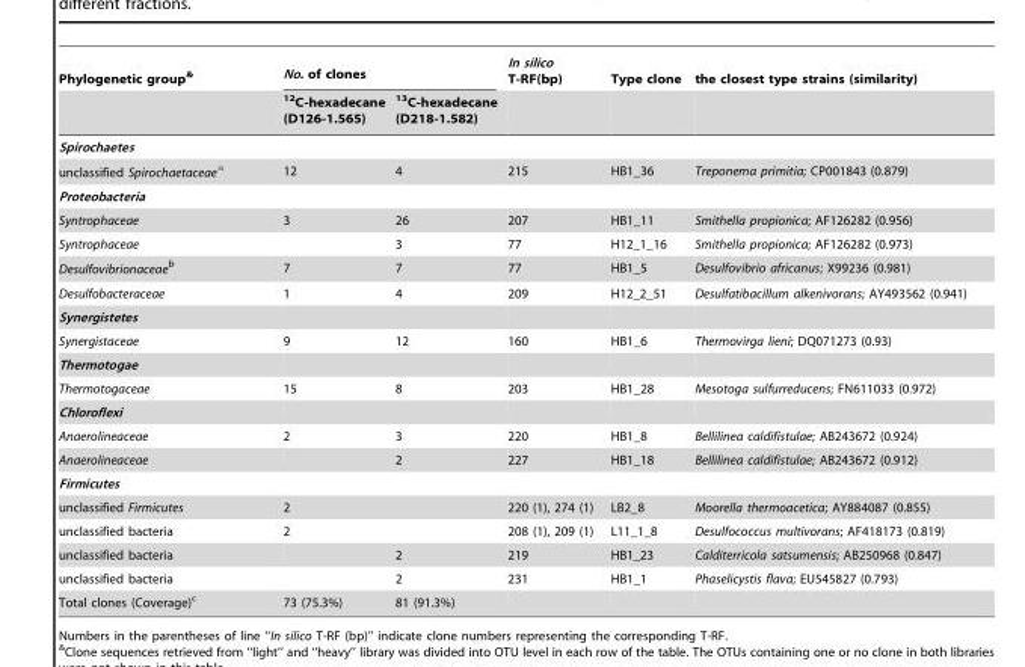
<table><thead><tr><td rowspan="2">Phylogenetic group&amp;</td><td colspan="2">No. of clones</td><td rowspan="2">In silico T-RF(bp)</td><td rowspan="2">Type clone</td><td rowspan="2">the closest type strains (similarity)</td></tr><tr><td><sup>12</sup>C-hexadecane (D126-1.565)</td><td><sup>13</sup>C-hexadecane (D218-1.582)</td></tr></thead><tbody><tr><td colspan="6">Spirochaetes</td></tr><tr><td>unclassified Spirochaetaceaea</td><td>12</td><td>4</td><td>215</td><td>HB1_36</td><td>Treponema primitia; CP001843 (0.879)</td></tr><tr><td colspan="6">Proteobacteria</td></tr><tr><td>Syntrophaceae</td><td>3</td><td>26</td><td>207</td><td>HB1_11</td><td>Smithella propionica; AF126282 (0.956)</td></tr><tr><td>Syntrophaceae</td><td></td><td>3</td><td>77</td><td>H12_1_16</td><td>Smithella propionica; AF126282 (0.973)</td></tr><tr><td>Desulfovibrionaceaeb</td><td>7</td><td>7</td><td>77</td><td>HB1_5</td><td>Desulfovibrio africanus; X99236 (0.981)</td></tr><tr><td>Desulfobacteraceae</td><td>1</td><td>4</td><td>209</td><td>H12_2_51</td><td>Desulfatibacillum alkenivorans; AY493562 (0.941)</td></tr><tr><td colspan="6">Synergistetes</td></tr><tr><td>Synergistaceae</td><td>9</td><td>12</td><td>160</td><td>HB1_6</td><td>Thermovirga lieni; DQ071273 (0.93)</td></tr><tr><td colspan="6">Thermotogae</td></tr><tr><td>Thermotogaceae</td><td>15</td><td>8</td><td>203</td><td>HB1_28</td><td>Mesotoga sulfurreducens; FN611033 (0.972)</td></tr><tr><td colspan="6">Chloroflexi</td></tr><tr><td>Anaerolineaceae</td><td>2</td><td>3</td><td>220</td><td>HB1_8</td><td>Bellilinea caldifistulae; AB243672 (0.924)</td></tr><tr><td>Anaerolineaceae</td><td></td><td>2</td><td>227</td><td>HB1_18</td><td>Bellilinea caldifistulae; AB243672 (0.912)</td></tr><tr><td colspan="6">Firmicutes</td></tr><tr><td>unclassified Firmicutes</td><td>2</td><td></td><td>220 (1), 274 (1)</td><td>LB2_8</td><td>Moorella thermoacetica; AY884087 (0.855)</td></tr><tr><td>unclassified bacteria</td><td>2</td><td></td><td>208 (1), 209 (1)</td><td>L11_1_8</td><td>Desulfococcus multivorans; AF418173 (0.819)</td></tr><tr><td>unclassified bacteria</td><td></td><td>2</td><td>219</td><td>HB1_23</td><td>Calditerricola satsumensis; AB250968 (0.847)</td></tr><tr><td>unclassified bacteria</td><td></td><td>2</td><td>231</td><td>HB1_1</td><td>Phaselicystis flava; EU545827 (0.793)</td></tr><tr><td>Total clones (Coverage)<sup>c</sup></td><td>73 (75.3%)</td><td>81 (91.3%)</td><td></td><td></td><td></td></tr></tbody></table>